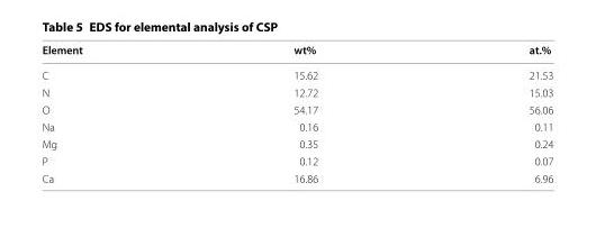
<table><thead><tr><td>Element</td><td>wt%</td><td>at.%</td></tr></thead><tbody><tr><td>C</td><td>15.62</td><td>21.53</td></tr><tr><td>N</td><td>12.72</td><td>15.03</td></tr><tr><td>O</td><td>54.17</td><td>56.06</td></tr><tr><td>Na</td><td>0.16</td><td>0.11</td></tr><tr><td>Mg</td><td>0.35</td><td>0.24</td></tr><tr><td>P</td><td>0.12</td><td>0.07</td></tr><tr><td>Ca</td><td>16.86</td><td>6.96</td></tr></tbody></table>